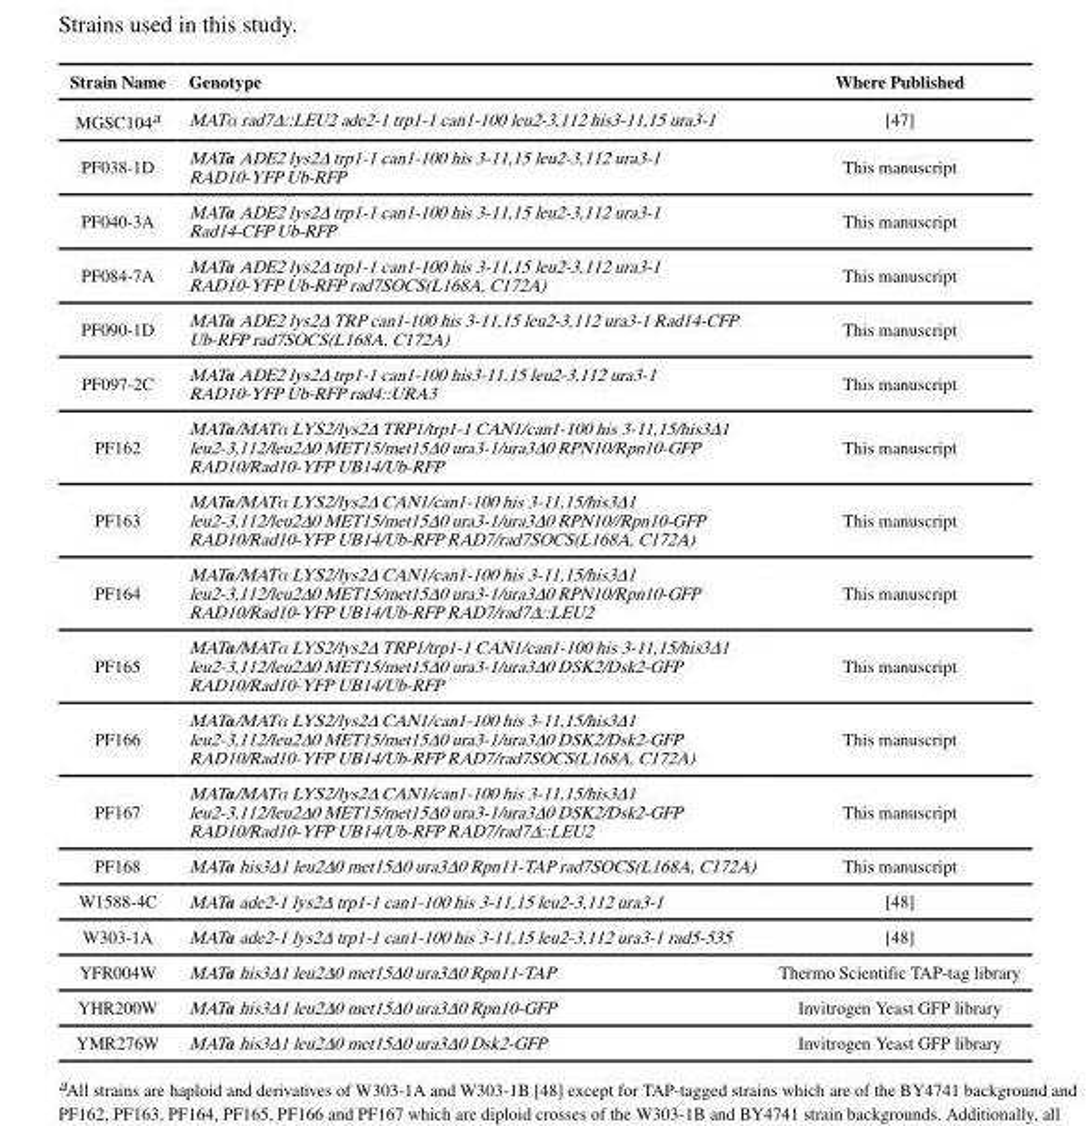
<table><thead><tr><td>Strain Name</td><td>Genotype</td><td>Where Published</td></tr></thead><tbody><tr><td>MGSC104<sup>a</sup></td><td>MATα rad7Δ::LEU2 ade2-1 trp1-1 can1-100 leu2-3,112 his3-11,15 ura3-1</td><td>[47]</td></tr><tr><td>PF038-1D</td><td>MATa ADE2 lys2Δ trp1-1 can1-100 his 3-11,15 leu2-3,112 ura3-1 RAD10-YFP Ub-RFP</td><td>This manuscript</td></tr><tr><td>PF040-3A</td><td>MATa ADE2 lys2Δ trp1-1 can1-100 his 3-11,15 leu2-3,112 ura3-1 Rad14-CFP Ub-RFP</td><td>This manuscript</td></tr><tr><td>PF084-7A</td><td>MATa ADE2 lys2Δ trp1-1 can1-100 his 3-11,15 leu2-3,112 ura3-1 RAD10-YFP Ub-RFP rad7SOCS(L168A, C172A)</td><td>This manuscript</td></tr><tr><td>PF090-1D</td><td>MATa ADE2 lys2Δ TRP can1-100 his 3-11,15 leu2-3,112 ura3-1 Rad14-CFP Ub-RFP rad7SOCS(L168A, C172A)</td><td>This manuscript</td></tr><tr><td>PF097-2C</td><td>MATa ADE2 lys2Δ trp1-1 can1-100 his3-11,15 leu2-3,112 ura3-1 RAD10-YFP Ub-RFP rad4::URA3</td><td>This manuscript</td></tr><tr><td>PF162</td><td>MATa/MATα LYS2/lys2Δ TRP1/trp1-1 CAN1/can1-100 his 3-11,15/his3Δ1 leu2-3,112/leu2Δ0 MET15/met15Δ0 ura3-1/ura3Δ0 RPN10/Rpn10-GFP RAD10/Rad10-YFP UB14/Ub-RFP</td><td>This manuscript</td></tr><tr><td>PF163</td><td>MATa/MATα LYS2/lys2Δ CAN1/can1-100 his 3-11,15/his3Δ1 leu2-3,112/leu2Δ0 MET15/met15Δ0 ura3-1/ura3Δ0 RPN10//Rpn10-GFP RAD10/Rad10-YFP UB14/Ub-RFP RAD7/rad7SOCS(L168A, C172A)</td><td>This manuscript</td></tr><tr><td>PF164</td><td>MATa/MATα LYS2/lys2Δ CAN1/can1-100 his 3-11,15/his3Δ1 leu2-3,112/leu2Δ0 MET15/met15Δ0 ura3-1/ura3Δ0 RPN10/Rpn10-GFP RAD10/Rad10-YFP UB14/Ub-RFP RAD7/rad7Δ::LEU2</td><td>This manuscript</td></tr><tr><td>PF165</td><td>MATa/MATα LYS2/lys2Δ TRP1/trp1-1 CAN1/can1-100 his 3-11,15/his3Δ1 leu2-3,112/leu2Δ0 MET15/met15Δ0 ura3-1/ura3Δ0 DSK2/Dsk2-GFP RAD10/Rad10-YFP UB14/Ub-RFP</td><td>This manuscript</td></tr><tr><td>PF166</td><td>MATa/MATα LYS2/lys2Δ CAN1/can1-100 his 3-11,15/his3Δ1 leu2-3,112/leu2Δ0 MET15/met15Δ0 ura3-1/ura3Δ0 DSK2/Dsk2-GFP RAD10/Rad10-YFP UB14/Ub-RFP RAD7/rad7SOCS(L168A, C172A)</td><td>This manuscript</td></tr><tr><td>PF167</td><td>MATa/MATα LYS2/lys2Δ CAN1/can1-100 his 3-11,15/his3Δ1 leu2-3,112/leu2Δ0 MET15/met15Δ0 ura3-1/ura3Δ0 DSK2/Dsk2-GFP RAD10/Rad10-YFP UB14/Ub-RFP RAD7/rad7Δ::LEU2</td><td>This manuscript</td></tr><tr><td>PF168</td><td>MATa his3Δ1 leu2Δ0 met15Δ0 ura3Δ0 Rpn11-TAP rad7SOCS(L168A, C172A)</td><td>This manuscript</td></tr><tr><td>W1588-4C</td><td>MATa ade2-1 lys2Δ trp1-1 can1-100 his 3-11,15 leu2-3,112 ura3-1</td><td>[48]</td></tr><tr><td>W303-1A</td><td>MATa ade2-1 lys2Δ trp1-1 can1-100 his 3-11,15 leu2-3,112 ura3-1 rad5-535</td><td>[48]</td></tr><tr><td>YFR004W</td><td>MATa his3Δ1 leu2Δ0 met15Δ0 ura3Δ0 Rpn11-TAP</td><td>Thermo Scientific TAP-tag library</td></tr><tr><td>YHR200W</td><td>MATa his3Δ1 leu2Δ0 met15Δ0 ura3Δ0 Rpn10-GFP</td><td>Invitrogen Yeast GFP library</td></tr><tr><td>YMR276W</td><td>MATa his3Δ1 leu2Δ0 met15Δ0 ura3Δ0 Dsk2-GFP</td><td>Invitrogen Yeast GFP library</td></tr></tbody></table>